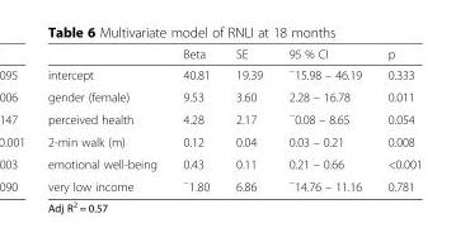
<table><thead><tr><td></td><td>Beta</td><td>SE</td><td>95 % CI</td><td>p</td></tr></thead><tbody><tr><td>intercept</td><td>40.81</td><td>19.39</td><td><sup>−</sup>15.98 – 46.19</td><td>0.333</td></tr><tr><td>gender (female)</td><td>9.53</td><td>3.60</td><td>2.28 – 16.78</td><td>0.011</td></tr><tr><td>perceived health</td><td>4.28</td><td>2.17</td><td><sup>−</sup>0.08 – 8.65</td><td>0.054</td></tr><tr><td>2-min walk (m)</td><td>0.12</td><td>0.04</td><td>0.03 – 0.21</td><td>0.008</td></tr><tr><td>emotional well-being</td><td>0.43</td><td>0.11</td><td>0.21 – 0.66</td><td>&lt;0.001</td></tr><tr><td>very low income</td><td><sup>−</sup>1.80</td><td>6.86</td><td><sup>−</sup>14.76 – 11.16</td><td>0.781</td></tr></tbody></table>